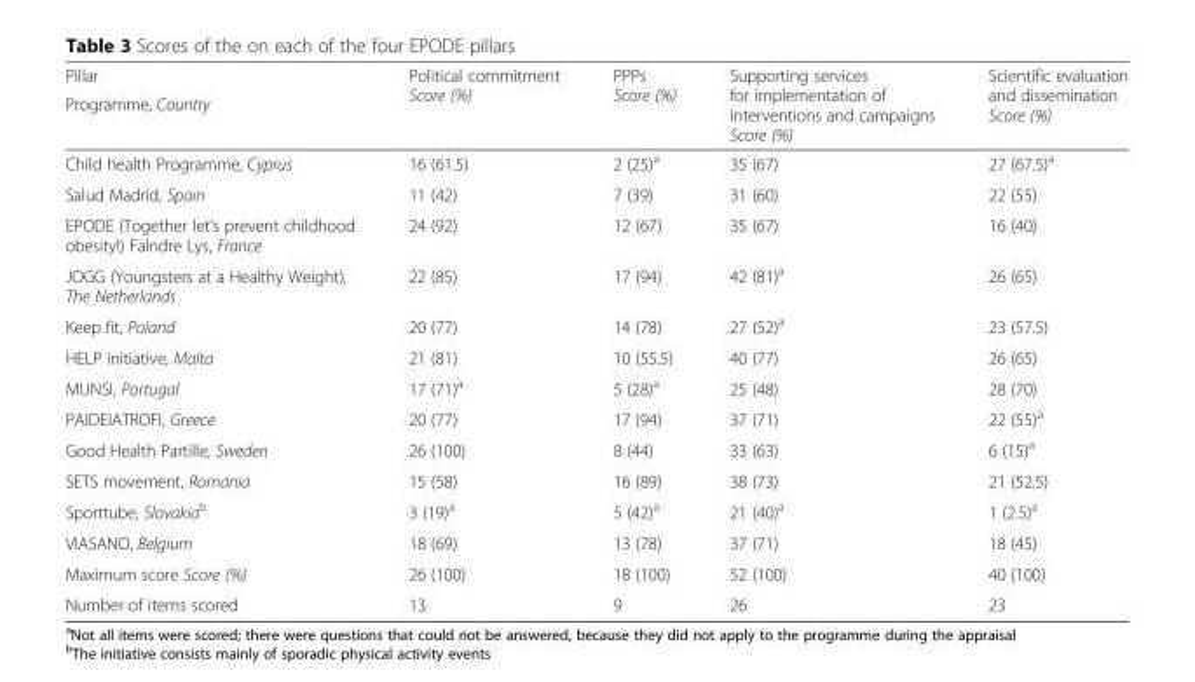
<table><thead><tr><td rowspan="2">Pillar Programme, Country</td><td rowspan="2">Political commitment Score (%)</td><td rowspan="2">PPPs Score (%)</td><td rowspan="2">Supporting services for implementation of interventions and campaigns Score (%)</td><td rowspan="2">Scientific evaluation and dissemination Score (%)</td></tr><tr></tr></thead><tbody><tr><td>Child health Programme, Cyprus</td><td>16 (61.5)</td><td>2 (25)<sup>a</sup></td><td>35 (67)</td><td>27 (67.5)<sup>a</sup></td></tr><tr><td>Salud Madrid, Spain</td><td>11 (42)</td><td>7 (39)</td><td>31 (60)</td><td>22 (55)</td></tr><tr><td>EPODE (Together let’s prevent childhood obesity!) Falndre Lys, France</td><td>24 (92)</td><td>12 (67)</td><td>35 (67)</td><td>16 (40)</td></tr><tr><td>JOGG (Youngsters at a Healthy Weight), The Netherlands</td><td>22 (85)</td><td>17 (94)</td><td>42 (81)<sup>a</sup></td><td>26 (65)</td></tr><tr><td>Keep fit, Poland</td><td>20 (77)</td><td>14 (78)</td><td>27 (52)<sup>a</sup></td><td>23 (57.5)</td></tr><tr><td>HELP initiative, Malta</td><td>21 (81)</td><td>10 (55.5)</td><td>40 (77)</td><td>26 (65)</td></tr><tr><td>MUNSI, Portugal</td><td>17 (71)<sup>a</sup></td><td>5 (28)<sup>a</sup></td><td>25 (48)</td><td>28 (70)</td></tr><tr><td>PAIDEIATROFI, Greece</td><td>20 (77)</td><td>17 (94)</td><td>37 (71)</td><td>22 (55)<sup>a</sup></td></tr><tr><td>Good Health Partille, Sweden</td><td>26 (100)</td><td>8 (44)</td><td>33 (63)</td><td>6 (15)<sup>a</sup></td></tr><tr><td>SETS movement, Romania</td><td>15 (58)</td><td>16 (89)</td><td>38 (73)</td><td>21 (52.5)</td></tr><tr><td>Sporttube, Slovakia<sup>b</sup></td><td>3 (19)<sup>a</sup></td><td>5 (42)<sup>a</sup></td><td>21 (40)<sup>a</sup></td><td>1 (2.5)<sup>a</sup></td></tr><tr><td>VIASANO, Belgium</td><td>18 (69)</td><td>13 (78)</td><td>37 (71)</td><td>18 (45)</td></tr><tr><td>Maximum score Score (%)</td><td>26 (100)</td><td>18 (100)</td><td>52 (100)</td><td>40 (100)</td></tr><tr><td>Number of items scored</td><td>13</td><td>9</td><td>26</td><td>23</td></tr></tbody></table>